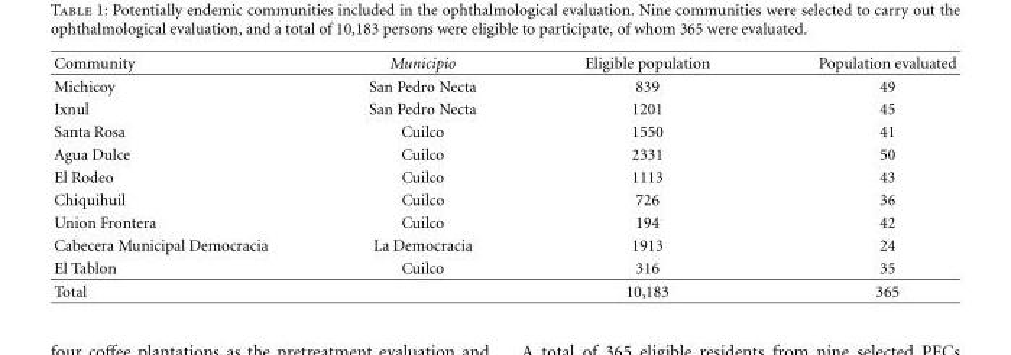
<table><thead><tr><td>Community</td><td>Municipio</td><td>Eligible population</td><td>Population evaluated</td></tr></thead><tbody><tr><td>Michicoy</td><td>San Pedro Necta</td><td>839</td><td>49</td></tr><tr><td>Ixnul</td><td>San Pedro Necta</td><td>1201</td><td>45</td></tr><tr><td>Santa Rosa</td><td>Cuilco</td><td>1550</td><td>41</td></tr><tr><td>Agua Dulce</td><td>Cuilco</td><td>2331</td><td>50</td></tr><tr><td>El Rodeo</td><td>Cuilco</td><td>1113</td><td>43</td></tr><tr><td>Chiquihuil</td><td>Cuilco</td><td>726</td><td>36</td></tr><tr><td>Union Frontera</td><td>Cuilco</td><td>194</td><td>42</td></tr><tr><td>Cabecera Municipal Democracia</td><td>La Democracia</td><td>1913</td><td>24</td></tr><tr><td>El Tablon</td><td>Cuilco</td><td>316</td><td>35</td></tr><tr><td>Total</td><td></td><td>10,183</td><td>365</td></tr></tbody></table>